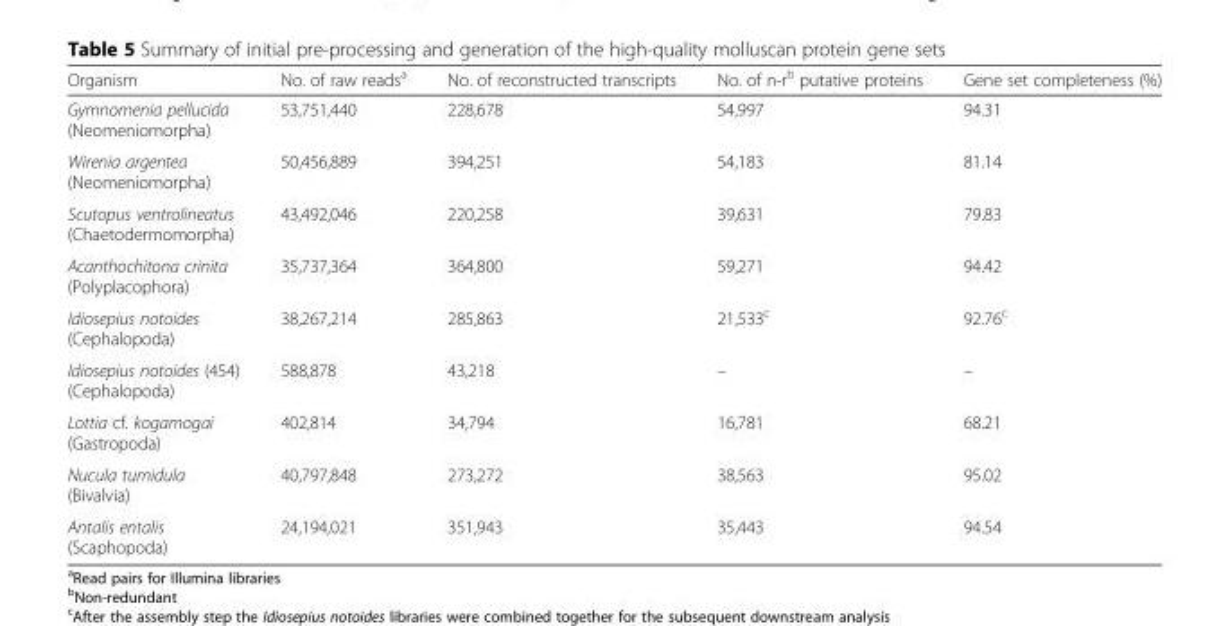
<table><thead><tr><td>Organism</td><td>No. of raw reads<sup>a</sup></td><td>No. of reconstructed transcripts</td><td>No. of n-r<sup>b</sup> putative proteins</td><td>Gene set completeness (%)</td></tr></thead><tbody><tr><td>Gymnomenia pellucida (Neomeniomorpha)</td><td>53,751,440</td><td>228,678</td><td>54,997</td><td>94.31</td></tr><tr><td>Wirenia argentea (Neomeniomorpha)</td><td>50,456,889</td><td>394,251</td><td>54,183</td><td>81.14</td></tr><tr><td>Scutopus ventrolineatus (Chaetodermomorpha)</td><td>43,492,046</td><td>220,258</td><td>39,631</td><td>79.83</td></tr><tr><td>Acanthochitona crinita (Polyplacophora)</td><td>35,737,364</td><td>364,800</td><td>59,271</td><td>94.42</td></tr><tr><td>Idiosepius notoides (Cephalopoda)</td><td>38,267,214</td><td>285,863</td><td>21,533<sup>c</sup></td><td>92.76<sup>c</sup></td></tr><tr><td>Idiosepius notoides (454) (Cephalopoda)</td><td>588,878</td><td>43,218</td><td>–</td><td>–</td></tr><tr><td>Lottia cf. kogamogai (Gastropoda)</td><td>402,814</td><td>34,794</td><td>16,781</td><td>68.21</td></tr><tr><td>Nucula tumidula (Bivalvia)</td><td>40,797,848</td><td>273,272</td><td>38,563</td><td>95.02</td></tr><tr><td>Antalis entalis (Scaphopoda)</td><td>24,194,021</td><td>351,943</td><td>35,443</td><td>94.54</td></tr></tbody></table>